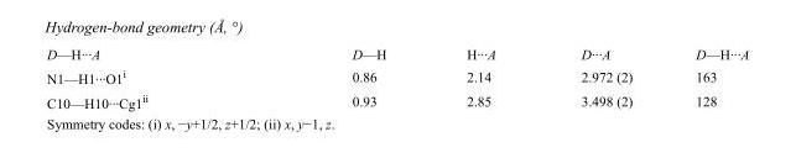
<table><tbody><tr><td>D—H···A</td><td>D—H</td><td>H···A</td><td>D···A</td><td>D—H···A</td></tr><tr><td>N1—H1···O1<sup>i</sup></td><td>0.86</td><td>2.14</td><td>2.972 (2)</td><td>163</td></tr><tr><td>C10—H10···Cg1<sup>ii</sup></td><td>0.93</td><td>2.85</td><td>3.498 (2)</td><td>128</td></tr></tbody></table>